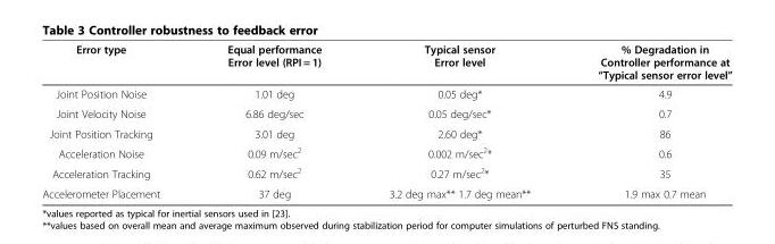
<table><thead><tr><td>Error type</td><td>Equal performance Error level (RPI = 1)</td><td>Typical sensor Error level</td><td>% Degradation in Controller performance at “Typical sensor error level”</td></tr></thead><tbody><tr><td>Joint Position Noise</td><td>1.01 deg</td><td>0.05 deg*</td><td>4.9</td></tr><tr><td>Joint Velocity Noise</td><td>6.86 deg/sec</td><td>0.05 deg/sec*</td><td>0.7</td></tr><tr><td>Joint Position Tracking</td><td>3.01 deg</td><td>2.60 deg*</td><td>86</td></tr><tr><td>Acceleration Noise</td><td>0.09 m/sec<sup>2</sup></td><td>0.002 m/sec<sup>2</sup>*</td><td>0.6</td></tr><tr><td>Acceleration Tracking</td><td>0.62 m/sec<sup>2</sup></td><td>0.27 m/sec<sup>2</sup>*</td><td>35</td></tr><tr><td>Accelerometer Placement</td><td>37 deg</td><td>3.2 deg max** 1.7 deg mean**</td><td>1.9 max 0.7 mean</td></tr></tbody></table>